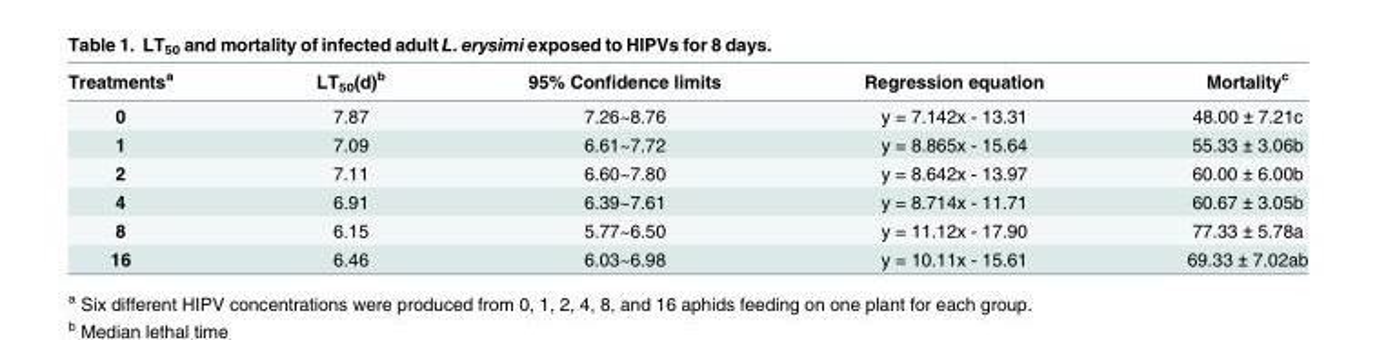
<table><thead><tr><td>Treatments<sup>a</sup></td><td>LT<sub>50</sub>(d)<sup>b</sup></td><td>95% Confidence limits</td><td>Regression equation</td><td>Mortality<sup>c</sup></td></tr></thead><tbody><tr><td>0</td><td>7.87</td><td>7.26~8.76</td><td>y = 7.142x - 13.31</td><td>48.00 ± 7.21c</td></tr><tr><td>1</td><td>7.09</td><td>6.61~7.72</td><td>y = 8.865x - 15.64</td><td>55.33 ± 3.06b</td></tr><tr><td>2</td><td>7.11</td><td>6.60~7.80</td><td>y = 8.642x - 13.97</td><td>60.00 ± 6.00b</td></tr><tr><td>4</td><td>6.91</td><td>6.39~7.61</td><td>y = 8.714x - 11.71</td><td>60.67 ± 3.05b</td></tr><tr><td>8</td><td>6.15</td><td>5.77~6.50</td><td>y = 11.12x - 17.90</td><td>77.33 ± 5.78a</td></tr><tr><td>16</td><td>6.46</td><td>6.03~6.98</td><td>y = 10.11x - 15.61</td><td>69.33 ± 7.02ab</td></tr></tbody></table>